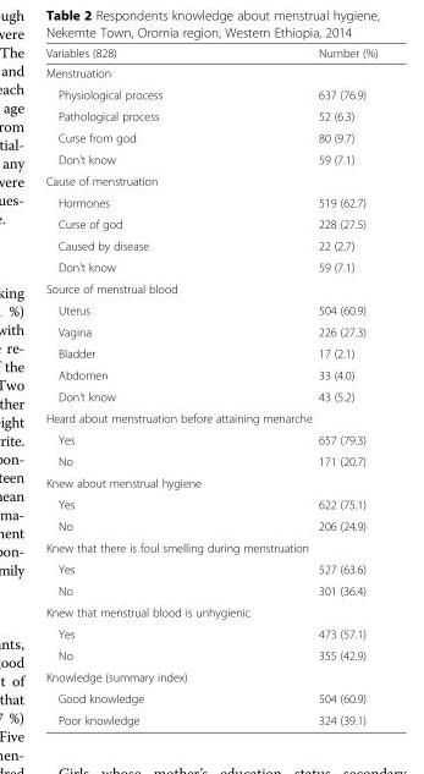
<table><thead><tr><td>Variables (828)</td><td>Number (%)</td></tr></thead><tbody><tr><td colspan="2">Menstruation</td></tr><tr><td>Physiological process</td><td>637 (76.9)</td></tr><tr><td>Pathological process</td><td>52 (6.3)</td></tr><tr><td>Curse from god</td><td>80 (9.7)</td></tr><tr><td>Don’t know</td><td>59 (7.1)</td></tr><tr><td colspan="2">Cause of menstruation</td></tr><tr><td>Hormones</td><td>519 (62.7)</td></tr><tr><td>Curse of god</td><td>228 (27.5)</td></tr><tr><td>Caused by disease</td><td>22 (2.7)</td></tr><tr><td>Don’t know</td><td>59 (7.1)</td></tr><tr><td colspan="2">Source of menstrual blood</td></tr><tr><td>Uterus</td><td>504 (60.9)</td></tr><tr><td>Vagina</td><td>226 (27.3)</td></tr><tr><td>Bladder</td><td>17 (2.1)</td></tr><tr><td>Abdomen</td><td>33 (4.0)</td></tr><tr><td>Don’t know</td><td>43 (5.2)</td></tr><tr><td colspan="2">Heard about menstruation before attaining menarche</td></tr><tr><td>Yes</td><td>657 (79.3)</td></tr><tr><td>No</td><td>171 (20.7)</td></tr><tr><td colspan="2">Knew about menstrual hygiene</td></tr><tr><td>Yes</td><td>622 (75.1)</td></tr><tr><td>No</td><td>206 (24.9)</td></tr><tr><td colspan="2">Knew that there is foul smelling during menstruation</td></tr><tr><td>Yes</td><td>527 (63.6)</td></tr><tr><td>No</td><td>301 (36.4)</td></tr><tr><td colspan="2">Knew that menstrual blood is unhygienic</td></tr><tr><td>Yes</td><td>473 (57.1)</td></tr><tr><td>No</td><td>355 (42.9)</td></tr><tr><td colspan="2">Knowledge (summary index)</td></tr><tr><td>Good knowledge</td><td>504 (60.9)</td></tr><tr><td>Poor knowledge</td><td>324 (39.1)</td></tr></tbody></table>